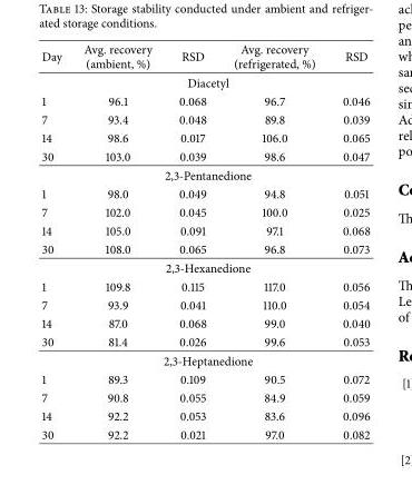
<table><thead><tr><td>Day</td><td>Avg. recovery (ambient, %)</td><td>RSD</td><td>Avg. recovery (refrigerated, %)</td><td>RSD</td></tr></thead><tbody><tr><td colspan="5">Diacetyl</td></tr><tr><td>1</td><td>96.1</td><td>0.068</td><td>96.7</td><td>0.046</td></tr><tr><td>7</td><td>93.4</td><td>0.048</td><td>89.8</td><td>0.039</td></tr><tr><td>14</td><td>98.6</td><td>0.017</td><td>106.0</td><td>0.065</td></tr><tr><td>30</td><td>103.0</td><td>0.039</td><td>98.6</td><td>0.047</td></tr><tr><td colspan="5">2,3-Pentanedione</td></tr><tr><td>1</td><td>98.0</td><td>0.049</td><td>94.8</td><td>0.051</td></tr><tr><td>7</td><td>102.0</td><td>0.045</td><td>100.0</td><td>0.025</td></tr><tr><td>14</td><td>105.0</td><td>0.091</td><td>97.1</td><td>0.068</td></tr><tr><td>30</td><td>108.0</td><td>0.065</td><td>96.8</td><td>0.073</td></tr><tr><td colspan="5">2,3-Hexanedione</td></tr><tr><td>1</td><td>109.8</td><td>0.115</td><td>117.0</td><td>0.056</td></tr><tr><td>7</td><td>93.9</td><td>0.041</td><td>110.0</td><td>0.054</td></tr><tr><td>14</td><td>87.0</td><td>0.068</td><td>99.0</td><td>0.040</td></tr><tr><td>30</td><td>81.4</td><td>0.026</td><td>99.6</td><td>0.053</td></tr><tr><td colspan="5">2,3-Heptanedione</td></tr><tr><td>1</td><td>89.3</td><td>0.109</td><td>90.5</td><td>0.072</td></tr><tr><td>7</td><td>90.8</td><td>0.055</td><td>84.9</td><td>0.059</td></tr><tr><td>14</td><td>92.2</td><td>0.053</td><td>83.6</td><td>0.096</td></tr><tr><td>30</td><td>92.2</td><td>0.021</td><td>97.0</td><td>0.082</td></tr></tbody></table>